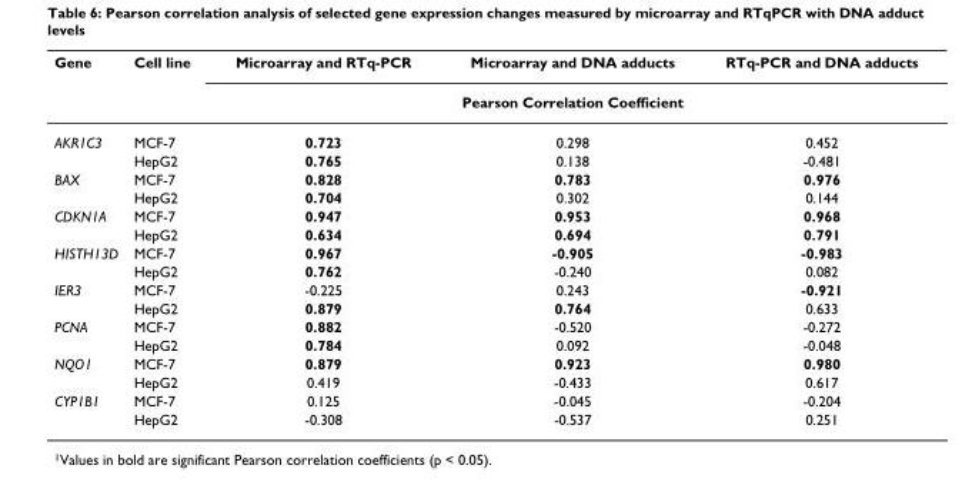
<table><thead><tr><td rowspan="2">Gene</td><td rowspan="2">Cell line</td><td>Microarray and RTq-PCR</td><td>Microarray and DNA adducts</td><td>RTq-PCR and DNA adducts</td></tr><tr><td colspan="3">Pearson Correlation Coefficient</td></tr></thead><tbody><tr><td rowspan="2">AKR1C3</td><td>MCF-7</td><td>0.723</td><td>0.298</td><td>0.452</td></tr><tr><td>HepG2</td><td>0.765</td><td>0.138</td><td>-0.481</td></tr><tr><td rowspan="2">BAX</td><td>MCF-7</td><td>0.828</td><td>0.783</td><td>0.976</td></tr><tr><td>HepG2</td><td>0.704</td><td>0.302</td><td>0.144</td></tr><tr><td rowspan="2">CDKN1A</td><td>MCF-7</td><td>0.947</td><td>0.953</td><td>0.968</td></tr><tr><td>HepG2</td><td>0.634</td><td>0.694</td><td>0.791</td></tr><tr><td rowspan="2">HISTH13D</td><td>MCF-7</td><td>0.967</td><td>-0.905</td><td>-0.983</td></tr><tr><td>HepG2</td><td>0.762</td><td>-0.240</td><td>0.082</td></tr><tr><td rowspan="2">IER3</td><td>MCF-7</td><td>-0.225</td><td>0.243</td><td>-0.921</td></tr><tr><td>HepG2</td><td>0.879</td><td>0.764</td><td>0.633</td></tr><tr><td rowspan="2">PCNA</td><td>MCF-7</td><td>0.882</td><td>-0.520</td><td>-0.272</td></tr><tr><td>HepG2</td><td>0.784</td><td>0.092</td><td>-0.048</td></tr><tr><td rowspan="2">NQO1</td><td>MCF-7</td><td>0.879</td><td>0.923</td><td>0.980</td></tr><tr><td>HepG2</td><td>0.419</td><td>-0.433</td><td>0.617</td></tr><tr><td rowspan="2">CYP1B1</td><td>MCF-7</td><td>0.125</td><td>-0.045</td><td>-0.204</td></tr><tr><td>HepG2</td><td>-0.308</td><td>-0.537</td><td>0.251</td></tr></tbody></table>